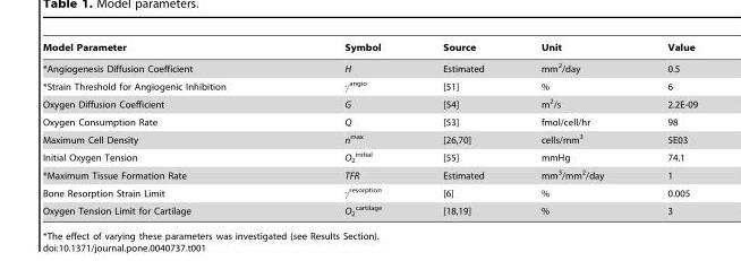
<table><thead><tr><td>Model Parameter</td><td>Symbol</td><td>Source</td><td>Unit</td><td>Value</td></tr></thead><tbody><tr><td>*Angiogenesis Diffusion Coefficient</td><td>H</td><td>Estimated</td><td>mm<sup>2</sup>/day</td><td>0.5</td></tr><tr><td>*Strain Threshold for Angiogenic Inhibition</td><td>γ<sup>angio</sup></td><td>[51]</td><td>%</td><td>6</td></tr><tr><td>Oxygen Diffusion Coefficient</td><td>G</td><td>[54]</td><td>m<sup>2</sup>/s</td><td>2.2E-09</td></tr><tr><td>Oxygen Consumption Rate</td><td>Q</td><td>[53]</td><td>fmol/cell/hr</td><td>98</td></tr><tr><td>Maximum Cell Density</td><td>n<sup>max</sup></td><td>[26,70]</td><td>cells/mm<sup>3</sup></td><td>5E03</td></tr><tr><td>Initial Oxygen Tension</td><td>O<sub>2</sub> <sup>initial</sup></td><td>[55]</td><td>mmHg</td><td>74.1</td></tr><tr><td>*Maximum Tissue Formation Rate</td><td>TFR</td><td>Estimated</td><td>mm<sup>3</sup>/mm<sup>2</sup>/day</td><td>1</td></tr><tr><td>Bone Resorption Strain Limit</td><td>γ<sup>resorption</sup></td><td>[6]</td><td>%</td><td>0.005</td></tr><tr><td>Oxygen Tension Limit for Cartilage</td><td>O<sub>2</sub> <sup>cartilage</sup></td><td>[18,19]</td><td>%</td><td>3</td></tr></tbody></table>